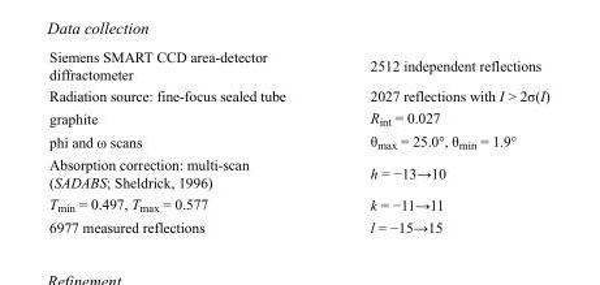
<table><tbody><tr><td>Siemens SMART CCD area-detector diffractometer</td><td>2512 independent reflections</td></tr><tr><td>Radiation source: fine-focus sealed tube</td><td>2027 reflections with I &gt; 2σ(I)</td></tr><tr><td>graphite</td><td>R<sub>int</sub> = 0.027</td></tr><tr><td>phi and ω scans</td><td>θ<sub>max</sub> = 25.0°, θ<sub>min</sub> = 1.9°</td></tr><tr><td>Absorption correction: multi-scan (SADABS; Sheldrick, 1996)</td><td>h = −13→10</td></tr><tr><td>T<sub>min</sub> = 0.497, T<sub>max</sub> = 0.577</td><td>k = −11→11</td></tr><tr><td>6977 measured reflections</td><td>l = −15→15</td></tr></tbody></table>